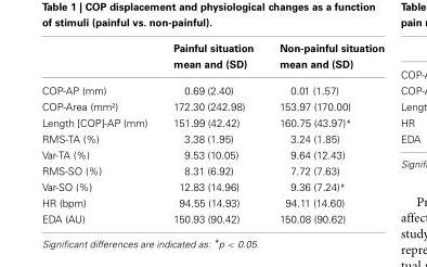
<table><thead><tr><td></td><td>Painful situation mean and (SD)</td><td>Non-painful situation mean and (SD)</td></tr></thead><tbody><tr><td>COP-AP (mm)</td><td>0.69 (2.40)</td><td>0.01 (1.57)</td></tr><tr><td>COP-Area (mm²)</td><td>172.30 (242.98)</td><td>153.97 (170.00)</td></tr><tr><td>Length [COP]-AP (mm)</td><td>151.99 (42.42)</td><td>160.75 (43.97)*</td></tr><tr><td>RMS-TA (%)</td><td>3.38 (1.95)</td><td>3.24 (1.85)</td></tr><tr><td>Var-TA (%)</td><td>9.53 (10.05)</td><td>9.64 (12.43)</td></tr><tr><td>RMS-SO (%)</td><td>8.31 (6.92)</td><td>7.72 (7.63)</td></tr><tr><td>Var-SO (%)</td><td>12.83 (14.96)</td><td>9.36 (7.24)*</td></tr><tr><td>HR (bpm)</td><td>94.55 (14.93)</td><td>94.11 (14.60)</td></tr><tr><td>EDA (AU)</td><td>150.93 (90.42)</td><td>150.08 (90.62)</td></tr></tbody></table>